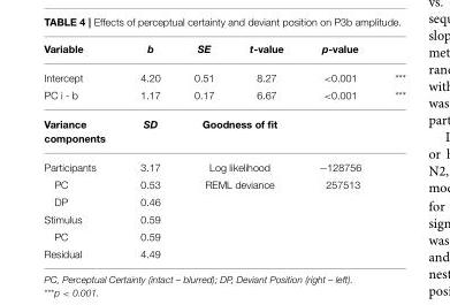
<table><thead><tr><td>Variable</td><td>b</td><td>SE</td><td>t-value</td><td>p-value</td><td></td></tr></thead><tbody><tr><td>Intercept</td><td>4.20</td><td>0.51</td><td>8.27</td><td>&lt;0.001</td><td>***</td></tr><tr><td>PC i - b</td><td>1.17</td><td>0.17</td><td>6.67</td><td>&lt;0.001</td><td>***</td></tr><tr><td>Variance components</td><td>SD</td><td colspan="2">Goodness of fit</td><td></td><td></td></tr><tr><td>Participants</td><td>3.17</td><td colspan="2">Log likelihood</td><td>−128756</td><td></td></tr><tr><td>PC</td><td>0.53</td><td colspan="2">REML deviance</td><td>257513</td><td></td></tr><tr><td>DP</td><td>0.46</td><td></td><td></td><td></td><td></td></tr><tr><td>Stimulus</td><td>0.59</td><td></td><td></td><td></td><td></td></tr><tr><td>PC</td><td>0.59</td><td></td><td></td><td></td><td></td></tr><tr><td>Residual</td><td>4.49</td><td></td><td></td><td></td><td></td></tr></tbody></table>